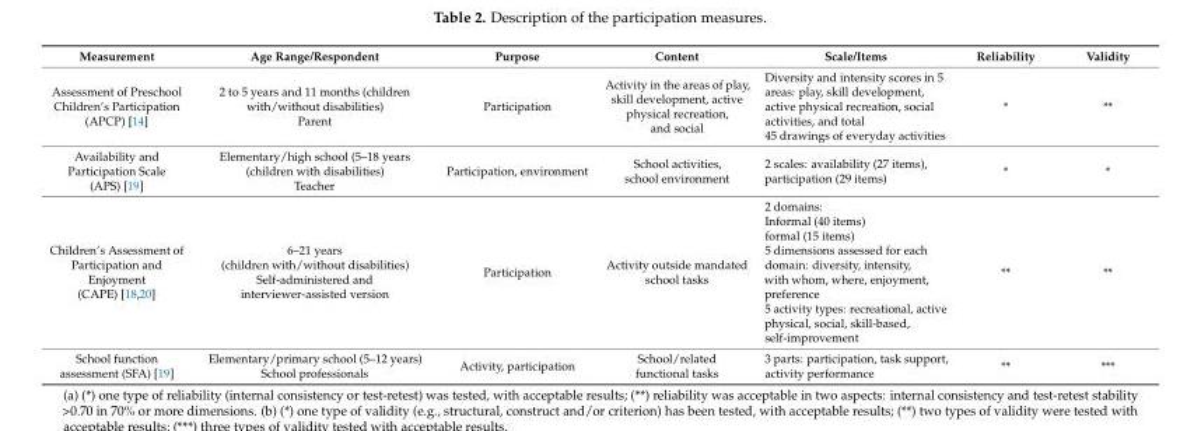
<table><thead><tr><td>Measurement</td><td>Age Range/Respondent</td><td>Purpose</td><td>Content</td><td>Scale/Items</td><td>Reliability</td><td>Validity</td></tr></thead><tbody><tr><td>Assessment of Preschool Children’s Participation (APCP) [14]</td><td>2 to 5 years and 11 months (children with/without disabilities) Parent</td><td>Participation</td><td>Activity in the areas of play, skill development, active physical recreation, and social</td><td>Diversity and intensity scores in 5 areas: play, skill development, active physical recreation, social activities, and total 45 drawings of everyday activities</td><td>*</td><td>**</td></tr><tr><td>Availability and Participation Scale (APS) [19]</td><td>Elementary/high school (5–18 years (children with disabilities) Teacher</td><td>Participation, environment</td><td>School activities, school environment</td><td>2 scales: availability (27 items), participation (29 items)</td><td>*</td><td>*</td></tr><tr><td>Children’s Assessment of Participation and Enjoyment (CAPE) [18,20]</td><td>6–21 years (children with/without disabilities) Self-administered and interviewer-assisted version</td><td>Participation</td><td>Activity outside mandated school tasks</td><td>2 domains: Informal (40 items) formal (15 items) 5 dimensions assessed for each domain: diversity, intensity, with whom, where, enjoyment, preference 5 activity types: recreational, active physical, social, skill-based, self-improvement</td><td>**</td><td>**</td></tr><tr><td>School function assessment (SFA) [19]</td><td>Elementary/primary school (5–12 years) School professionals</td><td>Activity, participation</td><td>School/related functional tasks</td><td>3 parts: participation, task support, activity performance</td><td>**</td><td>***</td></tr></tbody></table>